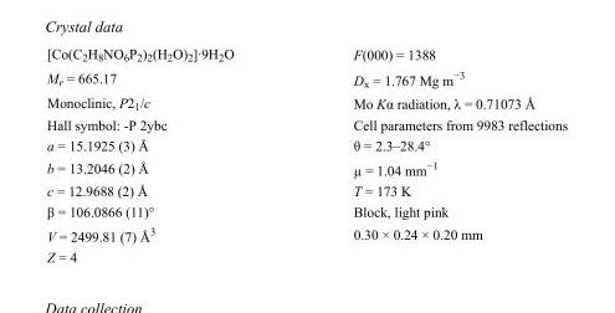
<table><tbody><tr><td>[Co(C<sub>2</sub>H<sub>8</sub>NO<sub>6</sub>P<sub>2</sub>)<sub>2</sub>(H<sub>2</sub>O)<sub>2</sub>]·9H<sub>2</sub>O</td><td>F(000) = 1388</td></tr><tr><td>M<sub>r</sub> = 665.17</td><td>D<sub>x</sub> = 1.767 Mg m<sup>−3</sup></td></tr><tr><td>Monoclinic, P2<sub>1</sub>/c</td><td>Mo Kα radiation, λ = 0.71073 Å</td></tr><tr><td>Hall symbol: -P 2ybc</td><td>Cell parameters from 9983 reflections</td></tr><tr><td>a = 15.1925 (3) Å</td><td>θ = 2.3–28.4°</td></tr><tr><td>b = 13.2046 (2) Å</td><td>µ = 1.04 mm<sup>−1</sup></td></tr><tr><td>c = 12.9688 (2) Å</td><td>T = 173 K</td></tr><tr><td>β = 106.0866 (11)°</td><td>Block, light pink</td></tr><tr><td>V = 2499.81 (7) Å<sup>3</sup></td><td>0.30 × 0.24 × 0.20 mm</td></tr><tr><td>Z = 4</td><td></td></tr></tbody></table>